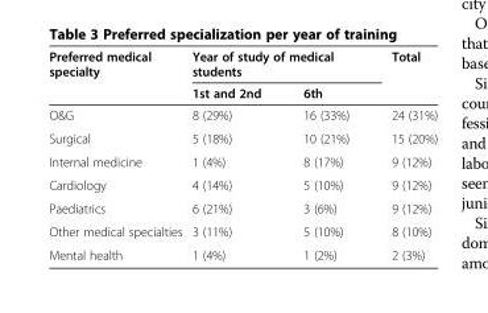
<table><thead><tr><td rowspan="2">Preferred medical specialty</td><td colspan="2">Year of study of medical students</td><td rowspan="2">Total</td></tr><tr><td>1st and 2nd</td><td>6th</td></tr></thead><tbody><tr><td>O&amp;G</td><td>8 (29%)</td><td>16 (33%)</td><td>24 (31%)</td></tr><tr><td>Surgical</td><td>5 (18%)</td><td>10 (21%)</td><td>15 (20%)</td></tr><tr><td>Internal medicine</td><td>1 (4%)</td><td>8 (17%)</td><td>9 (12%)</td></tr><tr><td>Cardiology</td><td>4 (14%)</td><td>5 (10%)</td><td>9 (12%)</td></tr><tr><td>Paediatrics</td><td>6 (21%)</td><td>3 (6%)</td><td>9 (12%)</td></tr><tr><td>Other medical specialties</td><td>3 (11%)</td><td>5 (10%)</td><td>8 (10%)</td></tr><tr><td>Mental health</td><td>1 (4%)</td><td>1 (2%)</td><td>2 (3%)</td></tr></tbody></table>